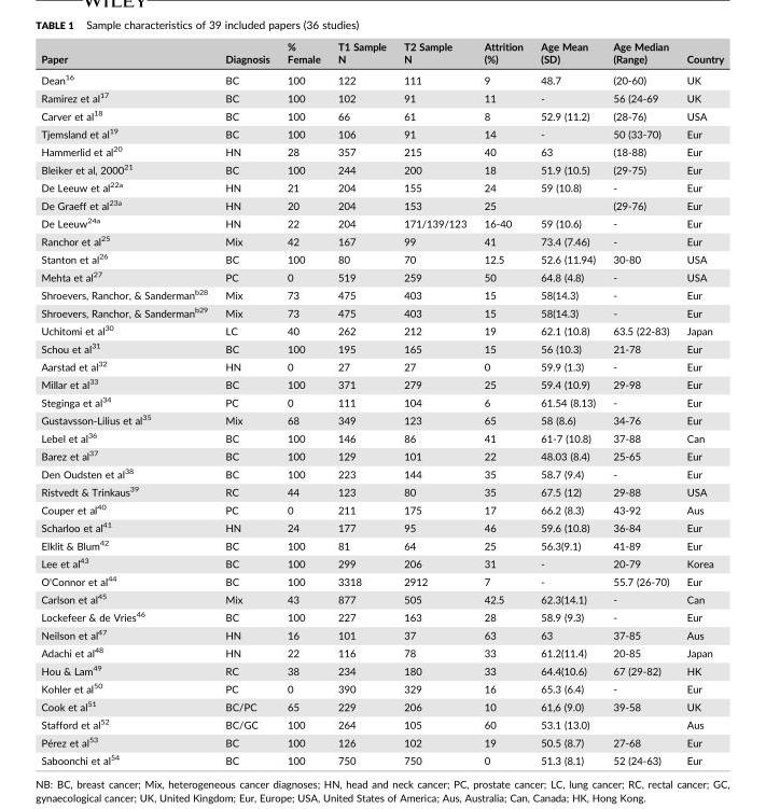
<table><thead><tr><td>Paper</td><td>Diagnosis</td><td>% Female</td><td>T1 Sample N</td><td>T2 Sample N</td><td>Attrition (%)</td><td>Age Mean (SD)</td><td>Age Median (Range)</td><td>Country</td></tr></thead><tbody><tr><td>Dean<sup>16</sup></td><td>BC</td><td>100</td><td>122</td><td>111</td><td>9</td><td>48.7</td><td>(20‐60)</td><td>UK</td></tr><tr><td>Ramirez et al<sup>17</sup></td><td>BC</td><td>100</td><td>102</td><td>91</td><td>11</td><td>‐</td><td>56 (24‐69</td><td>UK</td></tr><tr><td>Carver et al<sup>18</sup></td><td>BC</td><td>100</td><td>66</td><td>61</td><td>8</td><td>52.9 (11.2)</td><td>(28‐76)</td><td>USA</td></tr><tr><td>Tjemsland et al<sup>19</sup></td><td>BC</td><td>100</td><td>106</td><td>91</td><td>14</td><td>‐</td><td>50 (33‐70)</td><td>Eur</td></tr><tr><td>Hammerlid et al<sup>20</sup></td><td>HN</td><td>28</td><td>357</td><td>215</td><td>40</td><td>63</td><td>(18‐88)</td><td>Eur</td></tr><tr><td>Bleiker et al, 2000<sup>21</sup></td><td>BC</td><td>100</td><td>244</td><td>200</td><td>18</td><td>51.9 (10.5)</td><td>(29‐75)</td><td>Eur</td></tr><tr><td>De Leeuw et al22a</td><td>HN</td><td>21</td><td>204</td><td>155</td><td>24</td><td>59 (10.8)</td><td>‐</td><td>Eur</td></tr><tr><td>De Graeff et al23a</td><td>HN</td><td>20</td><td>204</td><td>153</td><td>25</td><td></td><td>(29‐76)</td><td>Eur</td></tr><tr><td>De Leeuw24a</td><td>HN</td><td>22</td><td>204</td><td>171/139/123</td><td>16‐40</td><td>59 (10.6)</td><td>‐</td><td>Eur</td></tr><tr><td>Ranchor et al<sup>25</sup></td><td>Mix</td><td>42</td><td>167</td><td>99</td><td>41</td><td>73.4 (7.46)</td><td>‐</td><td>Eur</td></tr><tr><td>Stanton et al<sup>26</sup></td><td>BC</td><td>100</td><td>80</td><td>70</td><td>12.5</td><td>52.6 (11.94)</td><td>30‐80</td><td>USA</td></tr><tr><td>Mehta et al<sup>27</sup></td><td>PC</td><td>0</td><td>519</td><td>259</td><td>50</td><td>64.8 (4.8)</td><td>‐</td><td>USA</td></tr><tr><td>Shroevers, Ranchor, &amp; Sandermanb28</td><td>Mix</td><td>73</td><td>475</td><td>403</td><td>15</td><td>58(14.3)</td><td>‐</td><td>Eur</td></tr><tr><td>Shroevers, Ranchor, &amp; Sandermanb29</td><td>Mix</td><td>73</td><td>475</td><td>403</td><td>15</td><td>58(14.3)</td><td>‐</td><td>Eur</td></tr><tr><td>Uchitomi et al<sup>30</sup></td><td>LC</td><td>40</td><td>262</td><td>212</td><td>19</td><td>62.1 (10.8)</td><td>63.5 (22‐83)</td><td>Japan</td></tr><tr><td>Schou et al<sup>31</sup></td><td>BC</td><td>100</td><td>195</td><td>165</td><td>15</td><td>56 (10.3)</td><td>21‐78</td><td>Eur</td></tr><tr><td>Aarstad et al<sup>32</sup></td><td>HN</td><td>0</td><td>27</td><td>27</td><td>0</td><td>59.9 (1.3)</td><td>‐</td><td>Eur</td></tr><tr><td>Millar et al<sup>33</sup></td><td>BC</td><td>100</td><td>371</td><td>279</td><td>25</td><td>59.4 (10.9)</td><td>29‐98</td><td>Eur</td></tr><tr><td>Steginga et al<sup>34</sup></td><td>PC</td><td>0</td><td>111</td><td>104</td><td>6</td><td>61.54 (8.13)</td><td>‐</td><td>Eur</td></tr><tr><td>Gustavsson‐Lilius et al<sup>35</sup></td><td>Mix</td><td>68</td><td>349</td><td>123</td><td>65</td><td>58 (8.6)</td><td>34‐76</td><td>Eur</td></tr><tr><td>Lebel et al<sup>36</sup></td><td>BC</td><td>100</td><td>146</td><td>86</td><td>41</td><td>61‐7 (10.8)</td><td>37‐88</td><td>Can</td></tr><tr><td>Barez et al<sup>37</sup></td><td>BC</td><td>100</td><td>129</td><td>101</td><td>22</td><td>48.03 (8.4)</td><td>25‐65</td><td>Eur</td></tr><tr><td>Den Oudsten et al<sup>38</sup></td><td>BC</td><td>100</td><td>223</td><td>144</td><td>35</td><td>58.7 (9.4)</td><td>‐</td><td>Eur</td></tr><tr><td>Ristvedt &amp; Trinkaus<sup>39</sup></td><td>RC</td><td>44</td><td>123</td><td>80</td><td>35</td><td>67.5 (12)</td><td>29‐88</td><td>USA</td></tr><tr><td>Couper et al<sup>40</sup></td><td>PC</td><td>0</td><td>211</td><td>175</td><td>17</td><td>66.2 (8.3)</td><td>43‐92</td><td>Aus</td></tr><tr><td>Scharloo et al<sup>41</sup></td><td>HN</td><td>24</td><td>177</td><td>95</td><td>46</td><td>59.6 (10.8)</td><td>36‐84</td><td>Eur</td></tr><tr><td>Elklit &amp; Blum<sup>42</sup></td><td>BC</td><td>100</td><td>81</td><td>64</td><td>25</td><td>56.3(9.1)</td><td>41‐89</td><td>Eur</td></tr><tr><td>Lee et al<sup>43</sup></td><td>BC</td><td>100</td><td>299</td><td>206</td><td>31</td><td>‐</td><td>20‐79</td><td>Korea</td></tr><tr><td>O&#x27;Connor et al<sup>44</sup></td><td>BC</td><td>100</td><td>3318</td><td>2912</td><td>7</td><td>‐</td><td>55.7 (26‐70)</td><td>Eur</td></tr><tr><td>Carlson et al<sup>45</sup></td><td>Mix</td><td>43</td><td>877</td><td>505</td><td>42.5</td><td>62.3(14.1)</td><td>‐</td><td>Can</td></tr><tr><td>Lockefeer &amp; de Vries<sup>46</sup></td><td>BC</td><td>100</td><td>227</td><td>163</td><td>28</td><td>58.9 (9.3)</td><td>‐</td><td>Eur</td></tr><tr><td>Neilson et al<sup>47</sup></td><td>HN</td><td>16</td><td>101</td><td>37</td><td>63</td><td>63</td><td>37‐85</td><td>Aus</td></tr><tr><td>Adachi et al<sup>48</sup></td><td>HN</td><td>22</td><td>116</td><td>78</td><td>33</td><td>61.2(11.4)</td><td>20‐85</td><td>Japan</td></tr><tr><td>Hou &amp; Lam<sup>49</sup></td><td>RC</td><td>38</td><td>234</td><td>180</td><td>33</td><td>64.4(10.6)</td><td>67 (29‐82)</td><td>HK</td></tr><tr><td>Kohler et al<sup>50</sup></td><td>PC</td><td>0</td><td>390</td><td>329</td><td>16</td><td>65.3 (6.4)</td><td>‐</td><td>Eur</td></tr><tr><td>Cook et al<sup>51</sup></td><td>BC/PC</td><td>65</td><td>229</td><td>206</td><td>10</td><td>61,6 (9.0)</td><td>39‐58</td><td>UK</td></tr><tr><td>Stafford et al<sup>52</sup></td><td>BC/GC</td><td>100</td><td>264</td><td>105</td><td>60</td><td>53.1 (13.0)</td><td></td><td>Aus</td></tr><tr><td>Pérez et al<sup>53</sup></td><td>BC</td><td>100</td><td>126</td><td>102</td><td>19</td><td>50.5 (8.7)</td><td>27‐68</td><td>Eur</td></tr><tr><td>Saboonchi et al<sup>54</sup></td><td>BC</td><td>100</td><td>750</td><td>750</td><td>0</td><td>51.3 (8.1)</td><td>52 (24‐63)</td><td>Eur</td></tr></tbody></table>